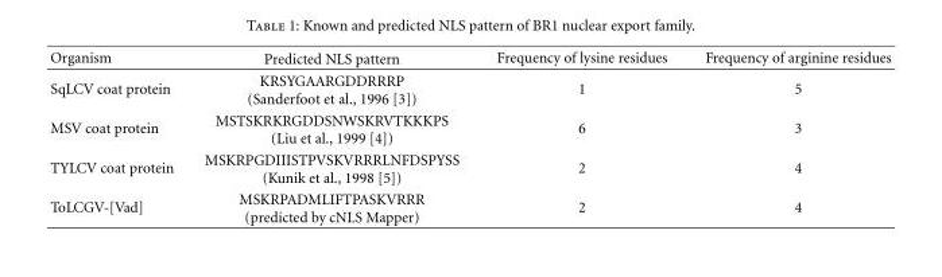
<table><thead><tr><td>Organism</td><td>Predicted NLS pattern</td><td>Frequency of lysine residues</td><td>Frequency of arginine residues</td></tr></thead><tbody><tr><td>SqLCV coat protein</td><td>KRSYGAARGDDRRRP (Sanderfoot et al., 1996 [3])</td><td>1</td><td>5</td></tr><tr><td>MSV coat protein</td><td>MSTSKRKRGDDSNWSKRVTKKKPS (Liu et al., 1999 [4])</td><td>6</td><td>3</td></tr><tr><td>TYLCV coat protein</td><td>MSKRPGDIIISTPVSKVRRRLNFDSPYSS (Kunik et al., 1998 [5])</td><td>2</td><td>4</td></tr><tr><td>ToLCGV-[Vad]</td><td>MSKRPADMLIFTPASKVRRR (predicted by cNLS Mapper)</td><td>2</td><td>4</td></tr></tbody></table>